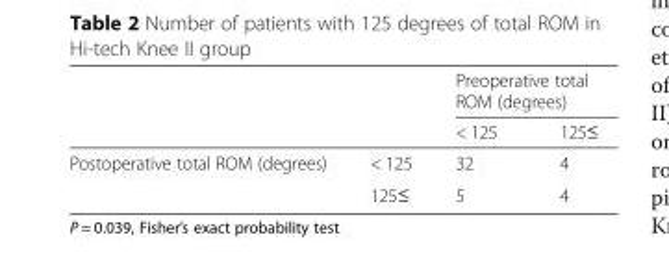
<table><thead><tr><td rowspan="2"></td><td rowspan="2"></td><td colspan="2">Preoperative total ROM (degrees)</td></tr><tr><td>&lt; 125</td><td>125≤</td></tr></thead><tbody><tr><td rowspan="2">Postoperative total ROM (degrees)</td><td>&lt; 125</td><td>32</td><td>4</td></tr><tr><td>125≤</td><td>5</td><td>4</td></tr></tbody></table>